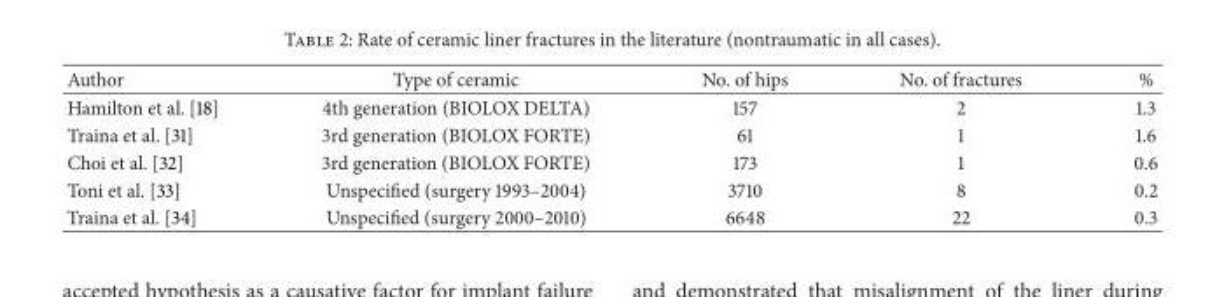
<table><thead><tr><td>Author</td><td>Type of ceramic</td><td>No. of hips</td><td>No. of fractures</td><td>%</td></tr></thead><tbody><tr><td>Hamilton et al. [18]</td><td>4th generation (BIOLOX DELTA)</td><td>157</td><td>2</td><td>1.3</td></tr><tr><td>Traina et al. [31]</td><td>3rd generation (BIOLOX FORTE)</td><td>61</td><td>1</td><td>1.6</td></tr><tr><td>Choi et al. [32]</td><td>3rd generation (BIOLOX FORTE)</td><td>173</td><td>1</td><td>0.6</td></tr><tr><td>Toni et al. [33]</td><td>Unspecified (surgery 1993–2004)</td><td>3710</td><td>8</td><td>0.2</td></tr><tr><td>Traina et al. [34]</td><td>Unspecified (surgery 2000–2010)</td><td>6648</td><td>22</td><td>0.3</td></tr></tbody></table>